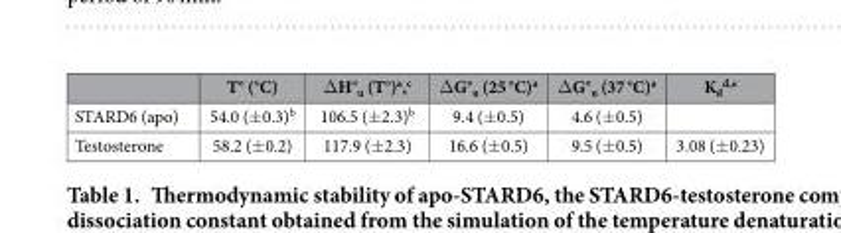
<table><thead><tr><td></td><td>T° (°C)</td><td>Δ H°<sub>u</sub> (T°)<sup>a</sup>,<sup>c</sup></td><td>Δ G°<sub>u</sub> (25 °C)<sup>a</sup></td><td>Δ G°<sub>u</sub> (37 °C)<sup>a</sup></td><td>K<sub>d</sub> <sup>d,e</sup></td></tr></thead><tbody><tr><td>STARD6 (apo)</td><td>54.0 (± 0.3)<sup>b</sup></td><td>106.5 (± 2.3)<sup>b</sup></td><td>9.4 (± 0.5)</td><td>4.6 (± 0.5)</td><td></td></tr><tr><td>Testosterone</td><td>58.2 (± 0.2)</td><td>117.9 (± 2.3)</td><td>16.6 (± 0.5)</td><td>9.5 (± 0.5)</td><td>3.08 (± 0.23)</td></tr></tbody></table>